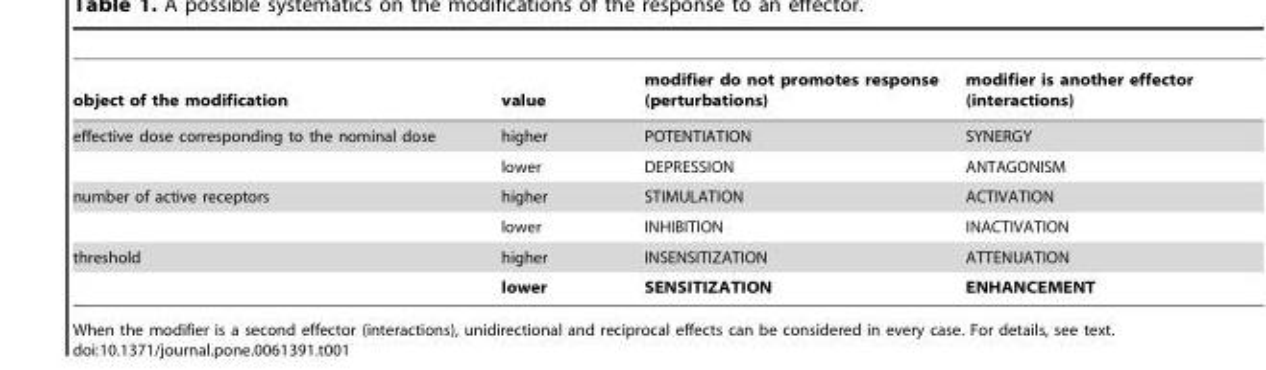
<table><thead><tr><td>object of the modification</td><td>value</td><td>modifier do not promotes response (perturbations)</td><td>modifier is another effector (interactions)</td></tr></thead><tbody><tr><td rowspan="2">effective dose corresponding to the nominal dose</td><td>higher</td><td>POTENTIATION</td><td>SYNERGY</td></tr><tr><td>lower</td><td>DEPRESSION</td><td>ANTAGONISM</td></tr><tr><td rowspan="2">number of active receptors</td><td>higher</td><td>STIMULATION</td><td>ACTIVATION</td></tr><tr><td>lower</td><td>INHIBITION</td><td>INACTIVATION</td></tr><tr><td rowspan="2">threshold</td><td>higher</td><td>INSENSITIZATION</td><td>ATTENUATION</td></tr><tr><td>lower</td><td>SENSITIZATION</td><td>ENHANCEMENT</td></tr></tbody></table>